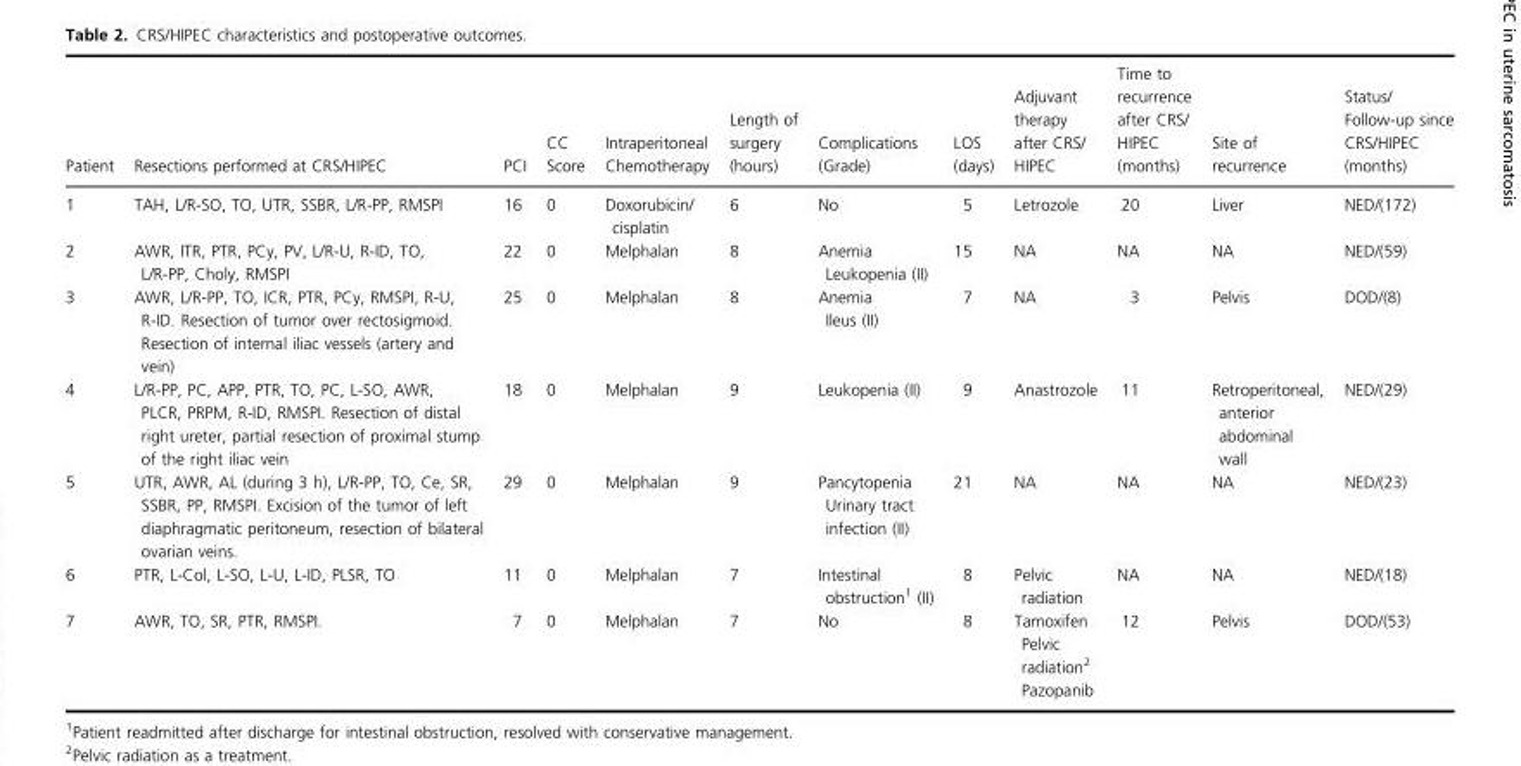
<table><thead><tr><td>Patient</td><td>Resections performed at CRS/HIPEC</td><td>PCI</td><td>CC Score</td><td>Intraperitoneal Chemotherapy</td><td>Length of surgery (hours)</td><td>Complications (Grade)</td><td>LOS (days)</td><td>Adjuvant therapy after CRS/ HIPEC</td><td>Time to recurrence after CRS/ HIPEC (months)</td><td>Site of recurrence</td><td>Status/ Follow-up since CRS/HIPEC (months)</td></tr></thead><tbody><tr><td>1</td><td>TAH, L/R-SO, TO, UTR, SSBR, L/R-PP, RMSPI</td><td>16</td><td>0</td><td>Doxorubicin/ cisplatin</td><td>6</td><td>No</td><td>5</td><td>Letrozole</td><td>20</td><td>Liver</td><td>NED/(172)</td></tr><tr><td>2</td><td>AWR, ITR, PTR, PCy, PV, L/R-U, R-ID, TO, L/R-PP, Choly, RMSPI</td><td>22</td><td>0</td><td>Melphalan</td><td>8</td><td>Anemia Leukopenia (II)</td><td>15</td><td>NA</td><td>NA</td><td>NA</td><td>NED/(59)</td></tr><tr><td>3</td><td>AWR, L/R-PP, TO, ICR, PTR, PCy, RMSPI, R-U, R-ID. Resection of tumor over rectosigmoid. Resection of internal iliac vessels (artery and vein)</td><td>25</td><td>0</td><td>Melphalan</td><td>8</td><td>Anemia Ileus (II)</td><td>7</td><td>NA</td><td>3</td><td>Pelvis</td><td>DOD/(8)</td></tr><tr><td>4</td><td>L/R-PP, PC, APP, PTR, TO, PC, L-SO, AWR, PLCR, PRPM, R-ID, RMSPI. Resection of distal right ureter, partial resection of proximal stump of the right iliac vein</td><td>18</td><td>0</td><td>Melphalan</td><td>9</td><td>Leukopenia (II)</td><td>9</td><td>Anastrozole</td><td>11</td><td>Retroperitoneal, anterior abdominal wall</td><td>NED/(29)</td></tr><tr><td>5</td><td>UTR, AWR, AL (during 3 h), L/R-PP, TO, Ce, SR, SSBR, PP, RMSPI. Excision of the tumor of left diaphragmatic peritoneum, resection of bilateral ovarian veins.</td><td>29</td><td>0</td><td>Melphalan</td><td>9</td><td>Pancytopenia Urinary tract infection (II)</td><td>21</td><td>NA</td><td>NA</td><td>NA</td><td>NED/(23)</td></tr><tr><td>6</td><td>PTR, L-Col, L-SO, L-U, L-ID, PLSR, TO</td><td>11</td><td>0</td><td>Melphalan</td><td>7</td><td>Intestinal obstruction1 (II)</td><td>8</td><td>Pelvic radiation</td><td>NA</td><td>NA</td><td>NED/(18)</td></tr><tr><td>7</td><td>AWR, TO, SR, PTR, RMSPI.</td><td>7</td><td>0</td><td>Melphalan</td><td>7</td><td>No</td><td>8</td><td>Tamoxifen Pelvic radiation2 Pazopanib</td><td>12</td><td>Pelvis</td><td>DOD/(53)</td></tr></tbody></table>